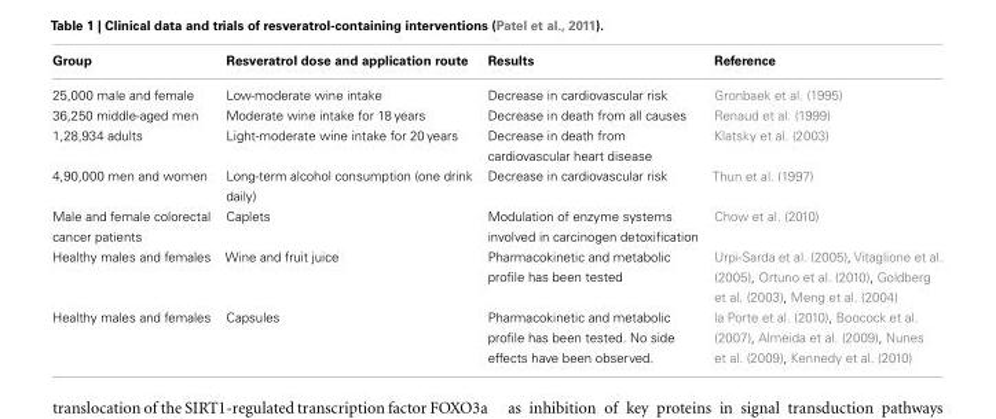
<table><thead><tr><td>Group</td><td>Resveratrol dose and application route</td><td>Results</td><td>Reference</td></tr></thead><tbody><tr><td>25,000 male and female</td><td>Low-moderate wine intake</td><td>Decrease in cardiovascular risk</td><td>Gronbaek et al. (1995)</td></tr><tr><td>36,250 middle-aged men</td><td>Moderate wine intake for 18 years</td><td>Decrease in death from all causes</td><td>Renaud et al. (1999)</td></tr><tr><td>1,28,934 adults</td><td>Light-moderate wine intake for 20 years</td><td>Decrease in death from cardiovascular heart disease</td><td>Klatsky et al. (2003)</td></tr><tr><td>4,90,000 men and women</td><td>Long-term alcohol consumption (one drink daily)</td><td>Decrease in cardiovascular risk</td><td>Thun et al. (1997)</td></tr><tr><td>Male and female colorectal cancer patients</td><td>Caplets</td><td>Modulation of enzyme systems involved in carcinogen detoxification</td><td>Chow et al. (2010)</td></tr><tr><td>Healthy males and females</td><td>Wine and fruit juice</td><td>Pharmacokinetic and metabolic profile has been tested</td><td>Urpi-Sarda et al. (2005), Vitaglione et al. (2005), Ortuno et al. (2010), Goldberg et al. (2003), Meng et al. (2004)</td></tr><tr><td>Healthy males and females</td><td>Capsules</td><td>Pharmacokinetic and metabolic profile has been tested. No side effects have been observed.</td><td>la Porte et al. (2010), Boocock et al. (2007), Almeida et al. (2009), Nunes et al. (2009), Kennedy et al. (2010)</td></tr></tbody></table>